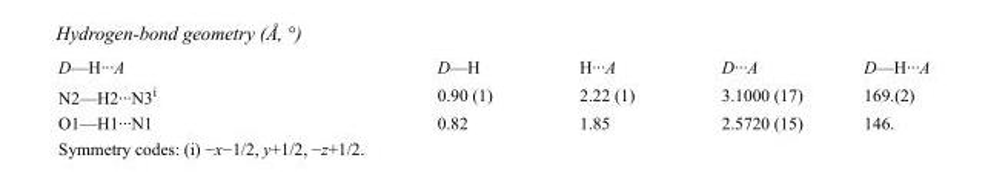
<table><tbody><tr><td>D—H···A</td><td>D—H</td><td>H···A</td><td>D···A</td><td>D—H···A</td></tr><tr><td>N2—H2···N3<sup>i</sup></td><td>0.90 (1)</td><td>2.22 (1)</td><td>3.1000 (17)</td><td>169.(2)</td></tr><tr><td>O1—H1···N1</td><td>0.82</td><td>1.85</td><td>2.5720 (15)</td><td>146.</td></tr></tbody></table>